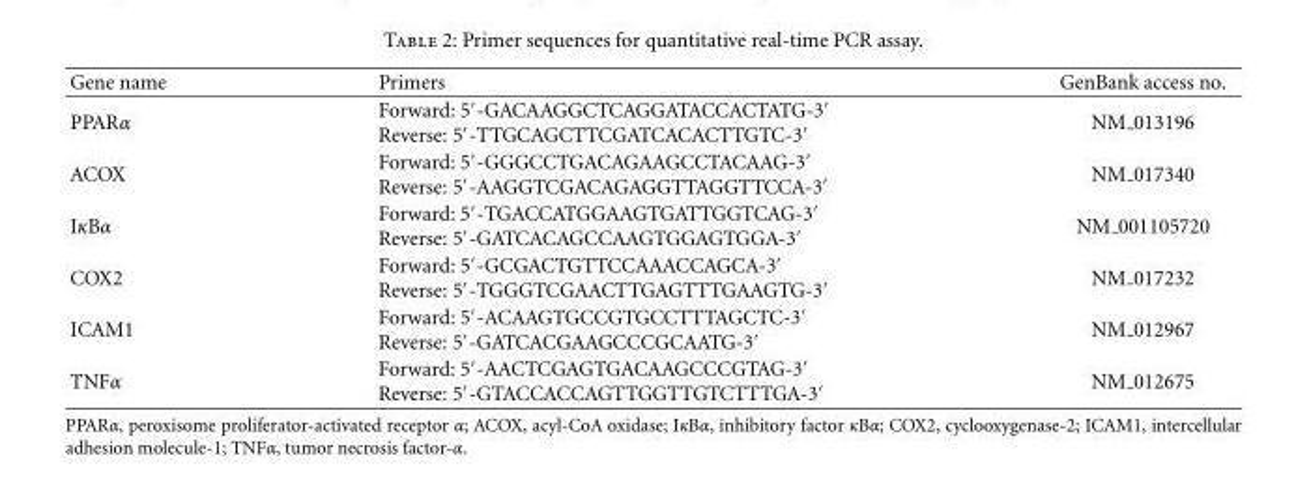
<table><thead><tr><td>Gene name</td><td>Primers</td><td>GenBank access no.</td></tr></thead><tbody><tr><td>PPARα</td><td>Forward: 5′-GACAAGGCTCAGGATACCACTATG-3′ Reverse: 5′-TTGCAGCTTCGATCACACTTGTC-3′</td><td>NM 013196</td></tr><tr><td>ACOX</td><td>Forward: 5′-GGGCCTGACAGAAGCCTACAAG-3′ Reverse: 5′-AAGGTCGACAGAGGTTAGGTTCCA-3′</td><td>NM 017340</td></tr><tr><td>IκBα</td><td>Forward: 5′-TGACCATGGAAGTGATTGGTCAG-3′ Reverse: 5′-GATCACAGCCAAGTGGAGTGGA-3′</td><td>NM 001105720</td></tr><tr><td>COX2</td><td>Forward: 5′-GCGACTGTTCCAAACCAGCA-3′ Reverse: 5′-TGGGTCGAACTTGAGTTTGAAGTG-3′</td><td>NM 017232</td></tr><tr><td>ICAM1</td><td>Forward: 5′-ACAAGTGCCGTGCCTTTAGCTC-3′ Reverse: 5′-GATCACGAAGCCCGCAATG-3′</td><td>NM 012967</td></tr><tr><td>TNFα</td><td>Forward: 5′-AACTCGAGTGACAAGCCCGTAG-3′ Reverse: 5′-GTACCACCAGTTGGTTGTCTTTGA-3′</td><td>NM 012675</td></tr></tbody></table>